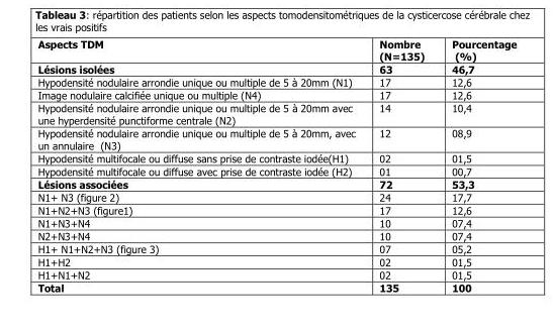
<table><thead><tr><td>Aspects TDM</td><td>Nombre (N=135)</td><td>Pourcentage (%)</td></tr></thead><tbody><tr><td>Lésions isolées</td><td>63</td><td>46,7</td></tr><tr><td>Hypodensité nodulaire arrondie unique ou multiple de 5 à 20mm (N1)</td><td>17</td><td>12,6</td></tr><tr><td>Image nodulaire calcifiée unique ou multiple (N4)</td><td>17</td><td>12,6</td></tr><tr><td>Hypodensité nodulaire arrondie unique ou multiple de 5 à 20mm avec une hyperdensité punctiforme centrale (N2)</td><td>14</td><td>10,4</td></tr><tr><td>Hypodensité nodulaire arrondie unique ou multiple de 5 à 20mm, avec un annulaire (N3)</td><td>12</td><td>08,9</td></tr><tr><td>Hypodensité multifocale ou diffuse sans prise de contraste iodée(H1)</td><td>02</td><td>01,5</td></tr><tr><td>Hypodensité multifocale ou diffuse avec prise de contraste iodée (H2)</td><td>01</td><td>00,7</td></tr><tr><td>Lésions associées</td><td>72</td><td>53,3</td></tr><tr><td>N1+ N3 (figure 2)</td><td>24</td><td>17,7</td></tr><tr><td>N1+N2+N3 (figure1)</td><td>17</td><td>12,6</td></tr><tr><td>N1+N3+N4</td><td>10</td><td>07,4</td></tr><tr><td>N2+N3+N4</td><td>10</td><td>07,4</td></tr><tr><td>H1+ N1+N2+N3 (figure 3)</td><td>07</td><td>05,2</td></tr><tr><td>H1+H2</td><td>02</td><td>01,5</td></tr><tr><td>H1+N1+N2</td><td>02</td><td>01,5</td></tr><tr><td>Total</td><td>135</td><td>100</td></tr></tbody></table>